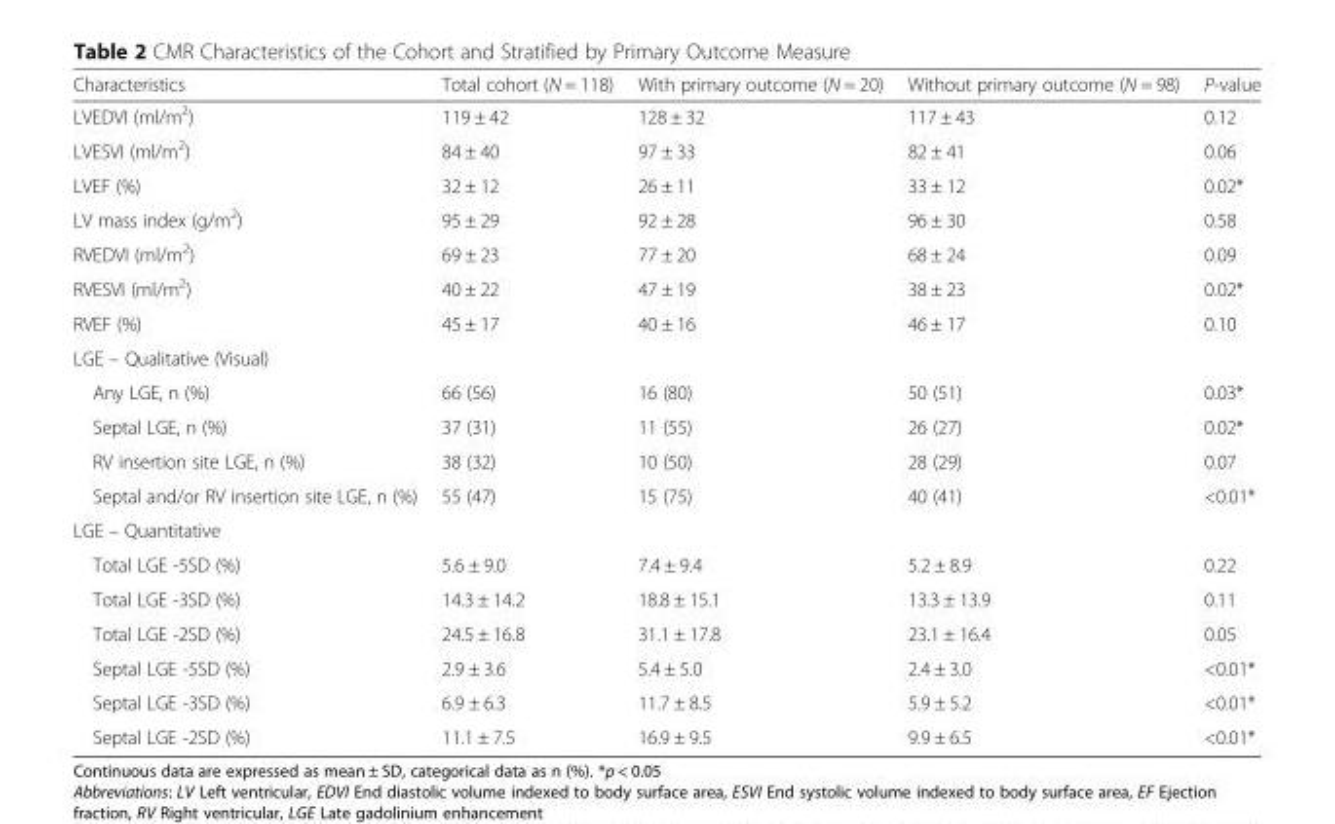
<table><thead><tr><td>Characteristics</td><td>Total cohort (N = 118)</td><td>With primary outcome (N = 20)</td><td>Without primary outcome (N = 98)</td><td>P-value</td></tr></thead><tbody><tr><td>LVEDVI (ml/m<sup>2</sup>)</td><td>119 ± 42</td><td>128 ± 32</td><td>117 ± 43</td><td>0.12</td></tr><tr><td>LVESVI (ml/m<sup>2</sup>)</td><td>84 ± 40</td><td>97 ± 33</td><td>82 ± 41</td><td>0.06</td></tr><tr><td>LVEF (%)</td><td>32 ± 12</td><td>26 ± 11</td><td>33 ± 12</td><td>0.02*</td></tr><tr><td>LV mass index (g/m<sup>2</sup>)</td><td>95 ± 29</td><td>92 ± 28</td><td>96 ± 30</td><td>0.58</td></tr><tr><td>RVEDVI (ml/m<sup>2</sup>)</td><td>69 ± 23</td><td>77 ± 20</td><td>68 ± 24</td><td>0.09</td></tr><tr><td>RVESVI (ml/m<sup>2</sup>)</td><td>40 ± 22</td><td>47 ± 19</td><td>38 ± 23</td><td>0.02*</td></tr><tr><td>RVEF (%)</td><td>45 ± 17</td><td>40 ± 16</td><td>46 ± 17</td><td>0.10</td></tr><tr><td colspan="5">LGE – Qualitative (Visual)</td></tr><tr><td>Any LGE, n (%)</td><td>66 (56)</td><td>16 (80)</td><td>50 (51)</td><td>0.03*</td></tr><tr><td>Septal LGE, n (%)</td><td>37 (31)</td><td>11 (55)</td><td>26 (27)</td><td>0.02*</td></tr><tr><td>RV insertion site LGE, n (%)</td><td>38 (32)</td><td>10 (50)</td><td>28 (29)</td><td>0.07</td></tr><tr><td>Septal and/or RV insertion site LGE, n (%)</td><td>55 (47)</td><td>15 (75)</td><td>40 (41)</td><td>&lt;0.01*</td></tr><tr><td colspan="5">LGE – Quantitative</td></tr><tr><td>Total LGE -5SD (%)</td><td>5.6 ± 9.0</td><td>7.4 ± 9.4</td><td>5.2 ± 8.9</td><td>0.22</td></tr><tr><td>Total LGE -3SD (%)</td><td>14.3 ± 14.2</td><td>18.8 ± 15.1</td><td>13.3 ± 13.9</td><td>0.11</td></tr><tr><td>Total LGE -2SD (%)</td><td>24.5 ± 16.8</td><td>31.1 ± 17.8</td><td>23.1 ± 16.4</td><td>0.05</td></tr><tr><td>Septal LGE -5SD (%)</td><td>2.9 ± 3.6</td><td>5.4 ± 5.0</td><td>2.4 ± 3.0</td><td>&lt;0.01*</td></tr><tr><td>Septal LGE -3SD (%)</td><td>6.9 ± 6.3</td><td>11.7 ± 8.5</td><td>5.9 ± 5.2</td><td>&lt;0.01*</td></tr><tr><td>Septal LGE -2SD (%)</td><td>11.1 ± 7.5</td><td>16.9 ± 9.5</td><td>9.9 ± 6.5</td><td>&lt;0.01*</td></tr></tbody></table>